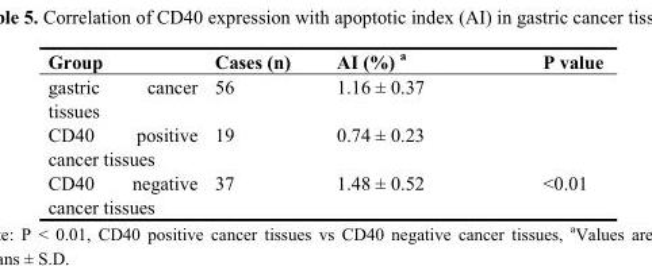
<table><thead><tr><td>Group</td><td>Cases (n)</td><td>AI (%) <sup>a</sup></td><td>P value</td></tr></thead><tbody><tr><td>gastric cancer tissues</td><td>56</td><td>1.16 ± 0.37</td><td></td></tr><tr><td>CD40 positive cancer tissues</td><td>19</td><td>0.74 ± 0.23</td><td></td></tr><tr><td>CD40 negative cancer tissues</td><td>37</td><td>1.48 ± 0.52</td><td>&lt;0.01</td></tr></tbody></table>